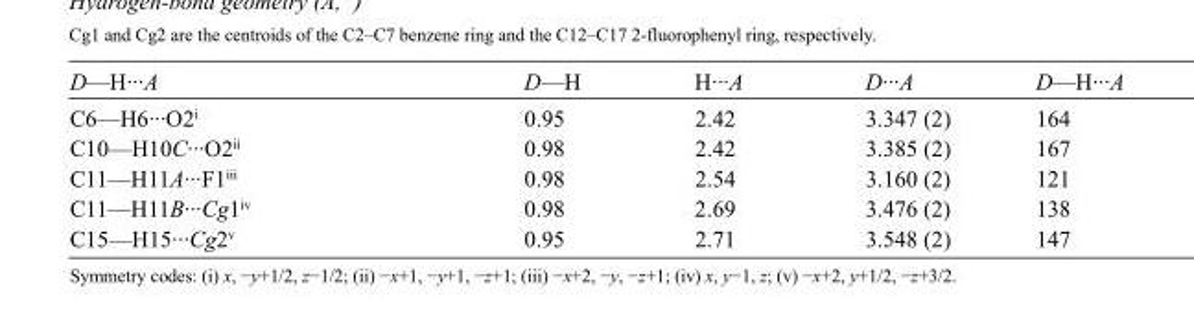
<table><tbody><tr><td>D—H···A</td><td>D—H</td><td>H···A</td><td>D···A</td><td>D—H···A</td></tr><tr><td>C6—H6···O2<sup>i</sup></td><td>0.95</td><td>2.42</td><td>3.347 (2)</td><td>164</td></tr><tr><td>C10—H10C···O2<sup>ii</sup></td><td>0.98</td><td>2.42</td><td>3.385 (2)</td><td>167</td></tr><tr><td>C11—H11A···F1<sup>iii</sup></td><td>0.98</td><td>2.54</td><td>3.160 (2)</td><td>121</td></tr><tr><td>C11—H11B···Cg1<sup>iv</sup></td><td>0.98</td><td>2.69</td><td>3.476 (2)</td><td>138</td></tr><tr><td>C15—H15···Cg2<sup>v</sup></td><td>0.95</td><td>2.71</td><td>3.548 (2)</td><td>147</td></tr></tbody></table>